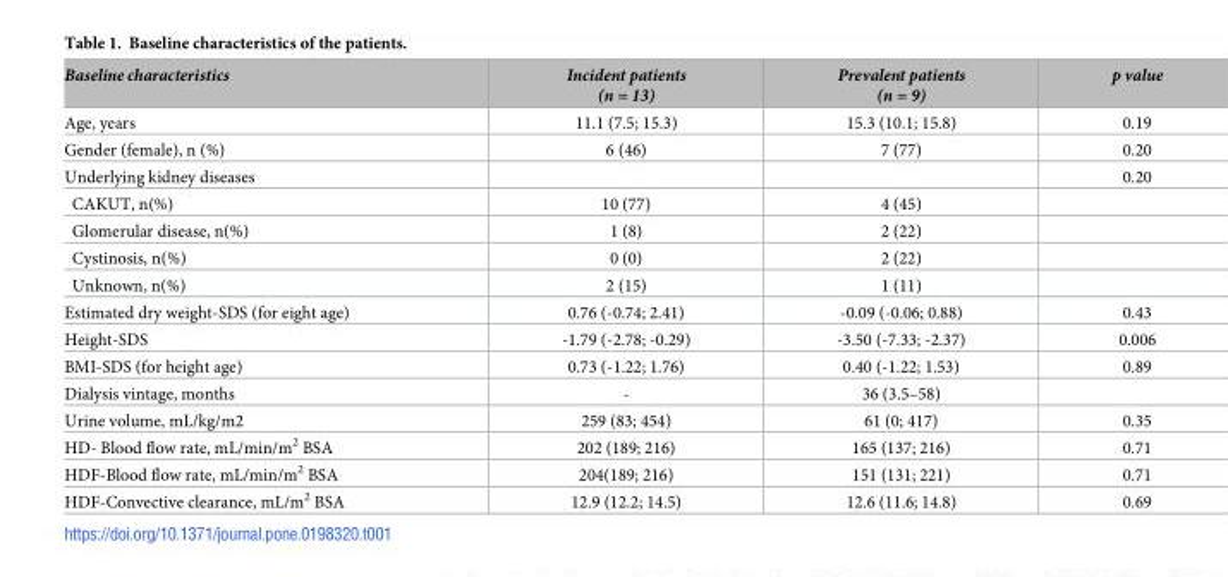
<table><thead><tr><td>Baseline characteristics</td><td>Incident patients (n = 13)</td><td>Prevalent patients (n = 9)</td><td>p value</td></tr></thead><tbody><tr><td>Age, years</td><td>11.1 (7.5; 15.3)</td><td>15.3 (10.1; 15.8)</td><td>0.19</td></tr><tr><td>Gender (female), n (%)</td><td>6 (46)</td><td>7 (77)</td><td>0.20</td></tr><tr><td>Underlying kidney diseases</td><td></td><td></td><td>0.20</td></tr><tr><td>CAKUT, n(%)</td><td>10 (77)</td><td>4 (45)</td><td></td></tr><tr><td>Glomerular disease, n(%)</td><td>1 (8)</td><td>2 (22)</td><td></td></tr><tr><td>Cystinosis, n(%)</td><td>0 (0)</td><td>2 (22)</td><td></td></tr><tr><td>Unknown, n(%)</td><td>2 (15)</td><td>1 (11)</td><td></td></tr><tr><td>Estimated dry weight-SDS (for eight age)</td><td>0.76 (-0.74; 2.41)</td><td>-0.09 (-0.06; 0.88)</td><td>0.43</td></tr><tr><td>Height-SDS</td><td>-1.79 (-2.78; -0.29)</td><td>-3.50 (-7.33; -2.37)</td><td>0.006</td></tr><tr><td>BMI-SDS (for height age)</td><td>0.73 (-1.22; 1.76)</td><td>0.40 (-1.22; 1.53)</td><td>0.89</td></tr><tr><td>Dialysis vintage, months</td><td>-</td><td>36 (3.5–58)</td><td></td></tr><tr><td>Urine volume, mL/kg/m2</td><td>259 (83; 454)</td><td>61 (0; 417)</td><td>0.35</td></tr><tr><td>HD- Blood flow rate, mL/min/m<sup>2</sup> BSA</td><td>202 (189; 216)</td><td>165 (137; 216)</td><td>0.71</td></tr><tr><td>HDF-Blood flow rate, mL/min/m<sup>2</sup> BSA</td><td>204(189; 216)</td><td>151 (131; 221)</td><td>0.71</td></tr><tr><td>HDF-Convective clearance, mL/m<sup>2</sup> BSA</td><td>12.9 (12.2; 14.5)</td><td>12.6 (11.6; 14.8)</td><td>0.69</td></tr></tbody></table>